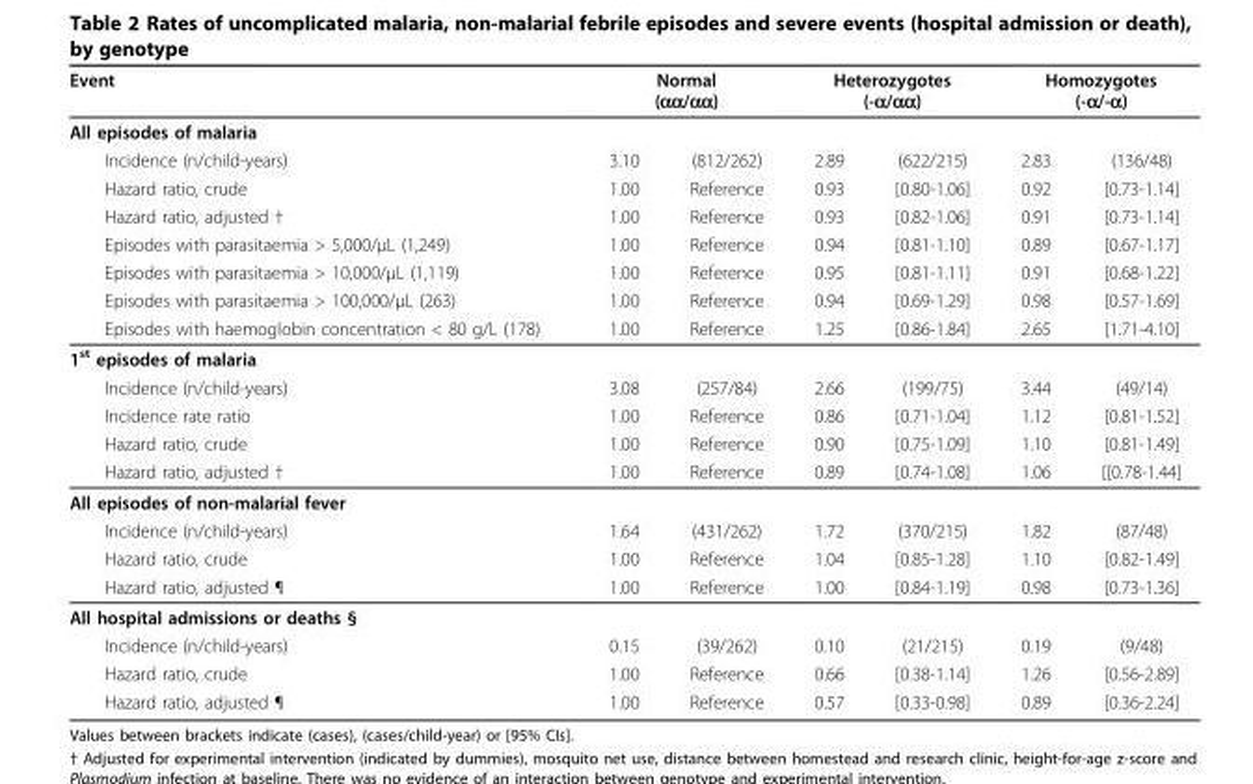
<table><tbody><tr><td>Event</td><td colspan="2">Normal (αα/αα)</td><td colspan="2">Heterozygotes (-α/αα)</td><td colspan="2">Homozygotes (-α/-α)</td></tr><tr><td colspan="7">All episodes of malaria</td></tr><tr><td>Incidence (n/child-years)</td><td>3.10</td><td>(812/262)</td><td>2.89</td><td>(622/215)</td><td>2.83</td><td>(136/48)</td></tr><tr><td>Hazard ratio, crude</td><td>1.00</td><td>Reference</td><td>0.93</td><td>[0.80-1.06]</td><td>0.92</td><td>[0.73-1.14]</td></tr><tr><td>Hazard ratio, adjusted †</td><td>1.00</td><td>Reference</td><td>0.93</td><td>[0.82-1.06]</td><td>0.91</td><td>[0.73-1.14]</td></tr><tr><td>Episodes with parasitaemia &gt; 5,000/μL (1,249)</td><td>1.00</td><td>Reference</td><td>0.94</td><td>[0.81-1.10]</td><td>0.89</td><td>[0.67-1.17]</td></tr><tr><td>Episodes with parasitaemia &gt; 10,000/μL (1,119)</td><td>1.00</td><td>Reference</td><td>0.95</td><td>[0.81-1.11]</td><td>0.91</td><td>[0.68-1.22]</td></tr><tr><td>Episodes with parasitaemia &gt; 100,000/μL (263)</td><td>1.00</td><td>Reference</td><td>0.94</td><td>[0.69-1.29]</td><td>0.98</td><td>[0.57-1.69]</td></tr><tr><td>Episodes with haemoglobin concentration &lt; 80 g/L (178)</td><td>1.00</td><td>Reference</td><td>1.25</td><td>[0.86-1.84]</td><td>2.65</td><td>[1.71-4.10]</td></tr><tr><td colspan="7">1<sup>st</sup> episodes of malaria</td></tr><tr><td>Incidence (n/child-years)</td><td>3.08</td><td>(257/84)</td><td>2.66</td><td>(199/75)</td><td>3.44</td><td>(49/14)</td></tr><tr><td>Incidence rate ratio</td><td>1.00</td><td>Reference</td><td>0.86</td><td>[0.71-1.04]</td><td>1.12</td><td>[0.81-1.52]</td></tr><tr><td>Hazard ratio, crude</td><td>1.00</td><td>Reference</td><td>0.90</td><td>[0.75-1.09]</td><td>1.10</td><td>[0.81-1.49]</td></tr><tr><td>Hazard ratio, adjusted †</td><td>1.00</td><td>Reference</td><td>0.89</td><td>[0.74-1.08]</td><td>1.06</td><td>[[0.78-1.44]</td></tr><tr><td colspan="7">All episodes of non-malarial fever</td></tr><tr><td>Incidence (n/child-years)</td><td>1.64</td><td>(431/262)</td><td>1.72</td><td>(370/215)</td><td>1.82</td><td>(87/48)</td></tr><tr><td>Hazard ratio, crude</td><td>1.00</td><td>Reference</td><td>1.04</td><td>[0.85-1.28]</td><td>1.10</td><td>[0.82-1.49]</td></tr><tr><td>Hazard ratio, adjusted ¶</td><td>1.00</td><td>Reference</td><td>1.00</td><td>[0.84-1.19]</td><td>0.98</td><td>[0.73-1.36]</td></tr><tr><td colspan="7">All hospital admissions or deaths §</td></tr><tr><td>Incidence (n/child-years)</td><td>0.15</td><td>(39/262)</td><td>0.10</td><td>(21/215)</td><td>0.19</td><td>(9/48)</td></tr><tr><td>Hazard ratio, crude</td><td>1.00</td><td>Reference</td><td>0.66</td><td>[0.38-1.14]</td><td>1.26</td><td>[0.56-2.89]</td></tr><tr><td>Hazard ratio, adjusted ¶</td><td>1.00</td><td>Reference</td><td>0.57</td><td>[0.33-0.98]</td><td>0.89</td><td>[0.36-2.24]</td></tr></tbody></table>